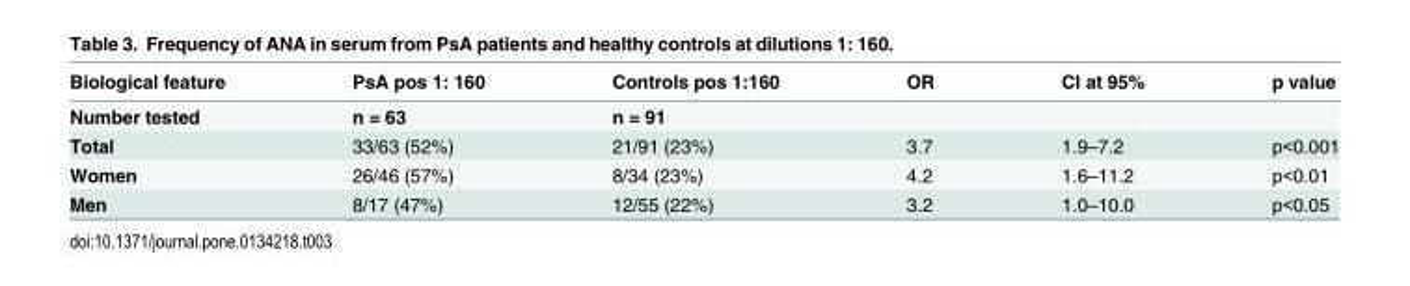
<table><thead><tr><td>Biological feature</td><td>PsA pos 1: 160</td><td>Controls pos 1:160</td><td>OR</td><td>CI at 95%</td><td>p value</td></tr></thead><tbody><tr><td>Number tested</td><td>n = 63</td><td>n = 91</td><td></td><td></td><td></td></tr><tr><td>Total</td><td>33/63 (52%)</td><td>21/91 (23%)</td><td>3.7</td><td>1.9–7.2</td><td>p&lt;0.001</td></tr><tr><td>Women</td><td>26/46 (57%)</td><td>8/34 (23%)</td><td>4.2</td><td>1.6–11.2</td><td>p&lt;0.01</td></tr><tr><td>Men</td><td>8/17 (47%)</td><td>12/55 (22%)</td><td>3.2</td><td>1.0–10.0</td><td>p&lt;0.05</td></tr></tbody></table>